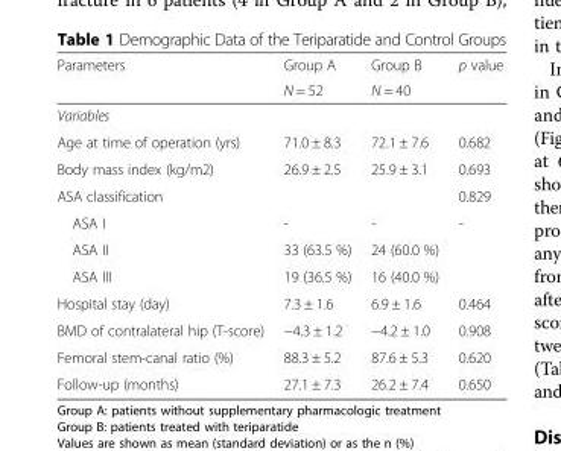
<table><thead><tr><td rowspan="2">Parameters</td><td rowspan="2">Group A N = 52</td><td rowspan="2">Group B N = 40</td><td rowspan="2">p value</td></tr><tr></tr></thead><tbody><tr><td colspan="4">Variables</td></tr><tr><td>Age at time of operation (yrs)</td><td>71.0 ± 8.3</td><td>72.1 ± 7.6</td><td>0.682</td></tr><tr><td>Body mass index (kg/m2)</td><td>26.9 ± 2.5</td><td>25.9 ± 3.1</td><td>0.693</td></tr><tr><td>ASA classification</td><td></td><td></td><td>0.829</td></tr><tr><td>ASA I</td><td>-</td><td>-</td><td>-</td></tr><tr><td>ASA II</td><td>33 (63.5 %)</td><td>24 (60.0 %)</td><td></td></tr><tr><td>ASA III</td><td>19 (36.5 %)</td><td>16 (40.0 %)</td><td></td></tr><tr><td>Hospital stay (day)</td><td>7.3 ± 1.6</td><td>6.9 ± 1.6</td><td>0.464</td></tr><tr><td>BMD of contralateral hip (T-score)</td><td>−4.3 ± 1.2</td><td>−4.2 ± 1.0</td><td>0.908</td></tr><tr><td>Femoral stem-canal ratio (%)</td><td>88.3 ± 5.2</td><td>87.6 ± 5.3</td><td>0.620</td></tr><tr><td>Follow-up (months)</td><td>27.1 ± 7.3</td><td>26.2 ± 7.4</td><td>0.650</td></tr></tbody></table>